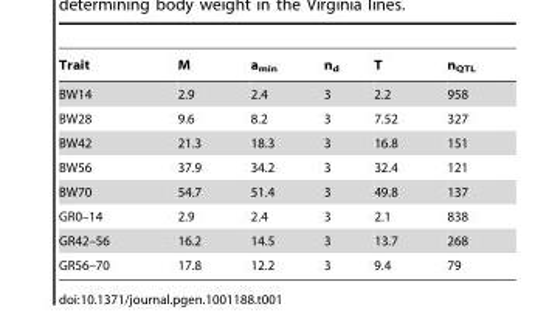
<table><thead><tr><td>Trait</td><td>M</td><td>a<sub>min</sub></td><td>n<sub>d</sub></td><td>T</td><td>n<sub>QTL</sub></td></tr></thead><tbody><tr><td>BW14</td><td>2.9</td><td>2.4</td><td>3</td><td>2.2</td><td>958</td></tr><tr><td>BW28</td><td>9.6</td><td>8.2</td><td>3</td><td>7.52</td><td>327</td></tr><tr><td>BW42</td><td>21.3</td><td>18.3</td><td>3</td><td>16.8</td><td>151</td></tr><tr><td>BW56</td><td>37.9</td><td>34.2</td><td>3</td><td>32.4</td><td>121</td></tr><tr><td>BW70</td><td>54.7</td><td>51.4</td><td>3</td><td>49.8</td><td>137</td></tr><tr><td>GR0–14</td><td>2.9</td><td>2.4</td><td>3</td><td>2.1</td><td>838</td></tr><tr><td>GR42–56</td><td>16.2</td><td>14.5</td><td>3</td><td>13.7</td><td>268</td></tr><tr><td>GR56–70</td><td>17.8</td><td>12.2</td><td>3</td><td>9.4</td><td>79</td></tr></tbody></table>